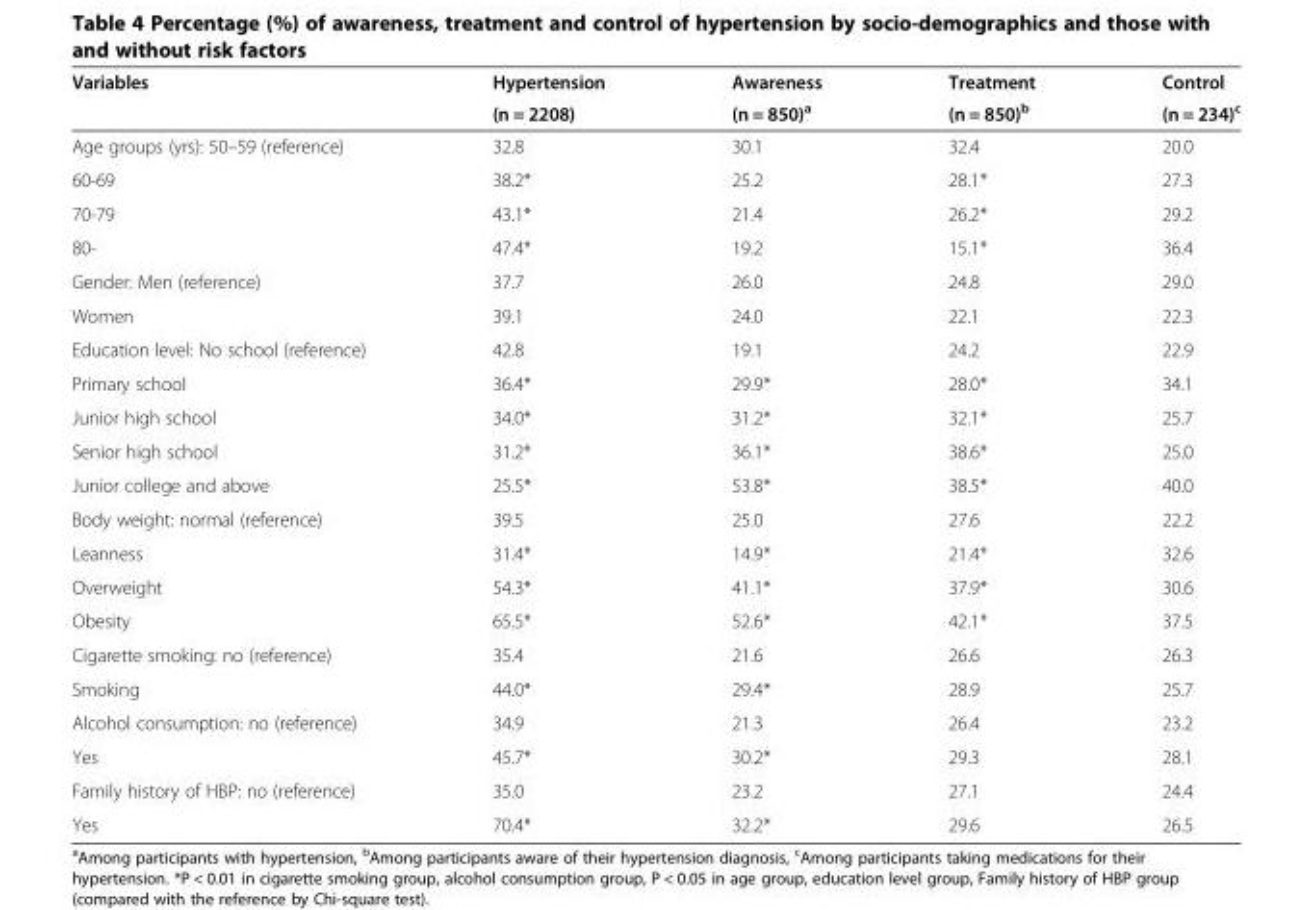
<table><thead><tr><td rowspan="2">Variables</td><td rowspan="2">Hypertension (n = 2208)</td><td rowspan="2">Awareness (n = 850)<sup>a</sup></td><td rowspan="2">Treatment (n = 850)<sup>b</sup></td><td rowspan="2">Control (n = 234)<sup>c</sup></td></tr><tr></tr></thead><tbody><tr><td>Age groups (yrs): 50–59 (reference)</td><td>32.8</td><td>30.1</td><td>32.4</td><td>20.0</td></tr><tr><td>60-69</td><td>38.2*</td><td>25.2</td><td>28.1*</td><td>27.3</td></tr><tr><td>70-79</td><td>43.1*</td><td>21.4</td><td>26.2*</td><td>29.2</td></tr><tr><td>80-</td><td>47.4*</td><td>19.2</td><td>15.1*</td><td>36.4</td></tr><tr><td>Gender: Men (reference)</td><td>37.7</td><td>26.0</td><td>24.8</td><td>29.0</td></tr><tr><td>Women</td><td>39.1</td><td>24.0</td><td>22.1</td><td>22.3</td></tr><tr><td>Education level: No school (reference)</td><td>42.8</td><td>19.1</td><td>24.2</td><td>22.9</td></tr><tr><td>Primary school</td><td>36.4*</td><td>29.9*</td><td>28.0*</td><td>34.1</td></tr><tr><td>Junior high school</td><td>34.0*</td><td>31.2*</td><td>32.1*</td><td>25.7</td></tr><tr><td>Senior high school</td><td>31.2*</td><td>36.1*</td><td>38.6*</td><td>25.0</td></tr><tr><td>Junior college and above</td><td>25.5*</td><td>53.8*</td><td>38.5*</td><td>40.0</td></tr><tr><td>Body weight: normal (reference)</td><td>39.5</td><td>25.0</td><td>27.6</td><td>22.2</td></tr><tr><td>Leanness</td><td>31.4*</td><td>14.9*</td><td>21.4*</td><td>32.6</td></tr><tr><td>Overweight</td><td>54.3*</td><td>41.1*</td><td>37.9*</td><td>30.6</td></tr><tr><td>Obesity</td><td>65.5*</td><td>52.6*</td><td>42.1*</td><td>37.5</td></tr><tr><td>Cigarette smoking: no (reference)</td><td>35.4</td><td>21.6</td><td>26.6</td><td>26.3</td></tr><tr><td>Smoking</td><td>44.0*</td><td>29.4*</td><td>28.9</td><td>25.7</td></tr><tr><td>Alcohol consumption: no (reference)</td><td>34.9</td><td>21.3</td><td>26.4</td><td>23.2</td></tr><tr><td>Yes</td><td>45.7*</td><td>30.2*</td><td>29.3</td><td>28.1</td></tr><tr><td>Family history of HBP: no (reference)</td><td>35.0</td><td>23.2</td><td>27.1</td><td>24.4</td></tr><tr><td>Yes</td><td>70.4*</td><td>32.2*</td><td>29.6</td><td>26.5</td></tr></tbody></table>